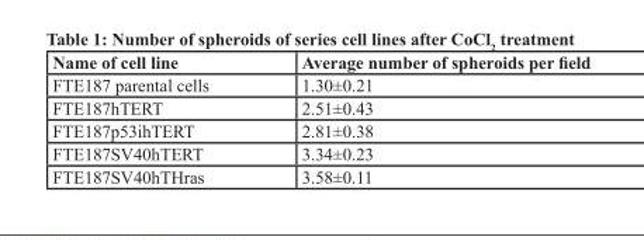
<table><thead><tr><td>Name of cell line</td><td>Average number of spheroids per field</td></tr></thead><tbody><tr><td>FTE187 parental cells</td><td>1.30±0.21</td></tr><tr><td>FTE187hTERT</td><td>2.51±0.43</td></tr><tr><td>FTE187p53ihTERT</td><td>2.81±0.38</td></tr><tr><td>FTE187SV40hTERT</td><td>3.34±0.23</td></tr><tr><td>FTE187SV40hTHras</td><td>3.58±0.11</td></tr></tbody></table>